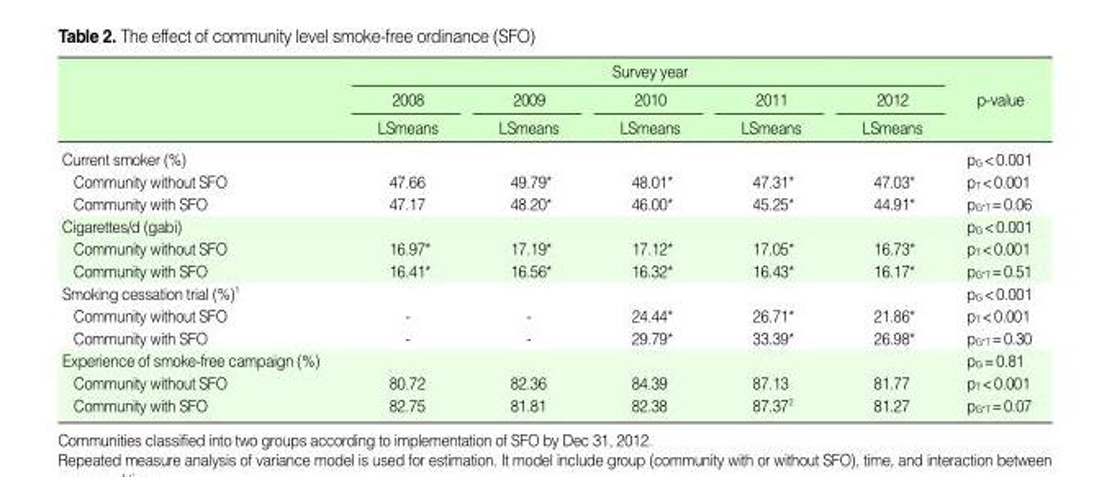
<table><thead><tr><td rowspan="3"></td><td colspan="5">Survey year</td><td rowspan="3">p-value</td></tr><tr><td rowspan="2">2008 LSmeans</td><td rowspan="2">2009 LSmeans</td><td rowspan="2">2010 LSmeans</td><td rowspan="2">2011 LSmeans</td><td rowspan="2">2012 LSmeans</td></tr><tr></tr></thead><tbody><tr><td>Current smoker (%)</td><td></td><td></td><td></td><td></td><td></td><td>p<sub>G</sub>&lt;0.001</td></tr><tr><td>Community without SFO</td><td>47.66</td><td>49.79*</td><td>48.01*</td><td>47.31*</td><td>47.03*</td><td>p<sub>T</sub>&lt;0.001</td></tr><tr><td>Community with SFO</td><td>47.17</td><td>48.20*</td><td>46.00*</td><td>45.25*</td><td>44.91*</td><td>p<sub>G*T</sub>=0.06</td></tr><tr><td>Cigarettes/d (gabi)</td><td></td><td></td><td></td><td></td><td></td><td>p<sub>G</sub>&lt;0.001</td></tr><tr><td>Community without SFO</td><td>16.97*</td><td>17.19*</td><td>17.12*</td><td>17.05*</td><td>16.73*</td><td>p<sub>T</sub>&lt;0.001</td></tr><tr><td>Community with SFO</td><td>16.41*</td><td>16.56*</td><td>16.32*</td><td>16.43*</td><td>16.17*</td><td>p<sub>G*T</sub>=0.51</td></tr><tr><td>Smoking cessation trial (%)<sup>1</sup></td><td></td><td></td><td></td><td></td><td></td><td>p<sub>G</sub>&lt;0.001</td></tr><tr><td>Community without SFO</td><td>-</td><td>-</td><td>24.44*</td><td>26.71*</td><td>21.86*</td><td>p<sub>T</sub>&lt;0.001</td></tr><tr><td>Community with SFO</td><td>-</td><td>-</td><td>29.79*</td><td>33.39*</td><td>26.98*</td><td>p<sub>G*T</sub>=0.30</td></tr><tr><td>Experience of smoke-free campaign (%)</td><td></td><td></td><td></td><td></td><td></td><td>p<sub>G</sub>=0.81</td></tr><tr><td>Community without SFO</td><td>80.72</td><td>82.36</td><td>84.39</td><td>87.13</td><td>81.77</td><td>p<sub>T</sub>&lt;0.001</td></tr><tr><td>Community with SFO</td><td>82.75</td><td>81.81</td><td>82.38</td><td>87.37<sup>2</sup></td><td>81.27</td><td>p<sub>G*T</sub>=0.07</td></tr></tbody></table>